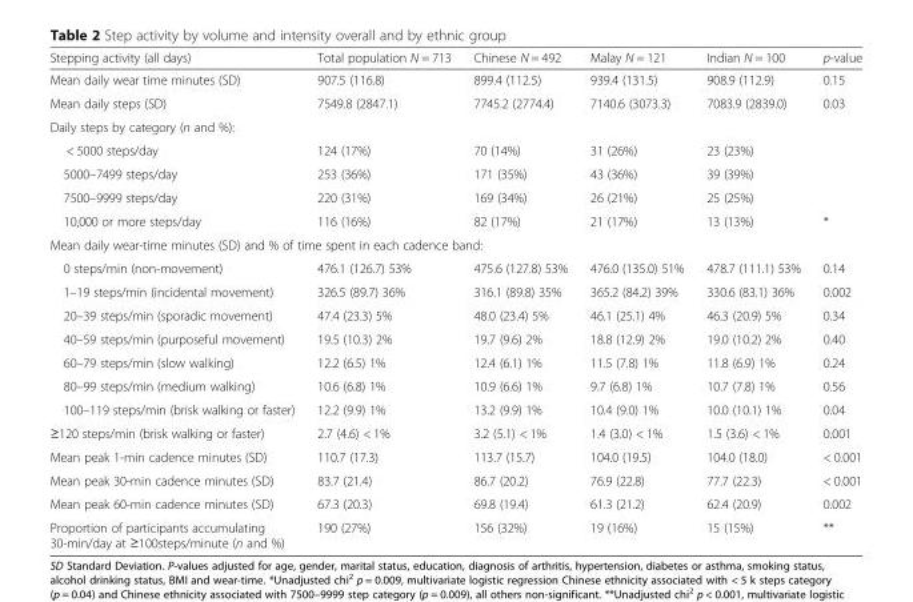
<table><thead><tr><td>Stepping activity (all days)</td><td>Total population N = 713</td><td>Chinese N = 492</td><td>Malay N = 121</td><td>Indian N = 100</td><td>p-value</td></tr></thead><tbody><tr><td>Mean daily wear time minutes (SD)</td><td>907.5 (116.8)</td><td>899.4 (112.5)</td><td>939.4 (131.5)</td><td>908.9 (112.9)</td><td>0.15</td></tr><tr><td>Mean daily steps (SD)</td><td>7549.8 (2847.1)</td><td>7745.2 (2774.4)</td><td>7140.6 (3073.3)</td><td>7083.9 (2839.0)</td><td>0.03</td></tr><tr><td colspan="6">Daily steps by category (n and %):</td></tr><tr><td>&lt; 5000 steps/day</td><td>124 (17%)</td><td>70 (14%)</td><td>31 (26%)</td><td>23 (23%)</td><td></td></tr><tr><td>5000–7499 steps/day</td><td>253 (36%)</td><td>171 (35%)</td><td>43 (36%)</td><td>39 (39%)</td><td></td></tr><tr><td>7500–9999 steps/day</td><td>220 (31%)</td><td>169 (34%)</td><td>26 (21%)</td><td>25 (25%)</td><td></td></tr><tr><td>10,000 or more steps/day</td><td>116 (16%)</td><td>82 (17%)</td><td>21 (17%)</td><td>13 (13%)</td><td>*</td></tr><tr><td colspan="6">Mean daily wear-time minutes (SD) and % of time spent in each cadence band:</td></tr><tr><td>0 steps/min (non-movement)</td><td>476.1 (126.7) 53%</td><td>475.6 (127.8) 53%</td><td>476.0 (135.0) 51%</td><td>478.7 (111.1) 53%</td><td>0.14</td></tr><tr><td>1–19 steps/min (incidental movement)</td><td>326.5 (89.7) 36%</td><td>316.1 (89.8) 35%</td><td>365.2 (84.2) 39%</td><td>330.6 (83.1) 36%</td><td>0.002</td></tr><tr><td>20–39 steps/min (sporadic movement)</td><td>47.4 (23.3) 5%</td><td>48.0 (23.4) 5%</td><td>46.1 (25.1) 4%</td><td>46.3 (20.9) 5%</td><td>0.34</td></tr><tr><td>40–59 steps/min (purposeful movement)</td><td>19.5 (10.3) 2%</td><td>19.7 (9.6) 2%</td><td>18.8 (12.9) 2%</td><td>19.0 (10.2) 2%</td><td>0.40</td></tr><tr><td>60–79 steps/min (slow walking)</td><td>12.2 (6.5) 1%</td><td>12.4 (6.1) 1%</td><td>11.5 (7.8) 1%</td><td>11.8 (6.9) 1%</td><td>0.24</td></tr><tr><td>80–99 steps/min (medium walking)</td><td>10.6 (6.8) 1%</td><td>10.9 (6.6) 1%</td><td>9.7 (6.8) 1%</td><td>10.7 (7.8) 1%</td><td>0.56</td></tr><tr><td>100–119 steps/min (brisk walking or faster)</td><td>12.2 (9.9) 1%</td><td>13.2 (9.9) 1%</td><td>10.4 (9.0) 1%</td><td>10.0 (10.1) 1%</td><td>0.04</td></tr><tr><td>≥120 steps/min (brisk walking or faster)</td><td>2.7 (4.6) &lt; 1%</td><td>3.2 (5.1) &lt; 1%</td><td>1.4 (3.0) &lt; 1%</td><td>1.5 (3.6) &lt; 1%</td><td>0.001</td></tr><tr><td>Mean peak 1-min cadence minutes (SD)</td><td>110.7 (17.3)</td><td>113.7 (15.7)</td><td>104.0 (19.5)</td><td>104.0 (18.0)</td><td>&lt; 0.001</td></tr><tr><td>Mean peak 30-min cadence minutes (SD)</td><td>83.7 (21.4)</td><td>86.7 (20.2)</td><td>76.9 (22.8)</td><td>77.7 (22.3)</td><td>&lt; 0.001</td></tr><tr><td>Mean peak 60-min cadence minutes (SD)</td><td>67.3 (20.3)</td><td>69.8 (19.4)</td><td>61.3 (21.2)</td><td>62.4 (20.9)</td><td>0.002</td></tr><tr><td>Proportion of participants accumulating 30-min/day at ≥100steps/minute (n and %)</td><td>190 (27%)</td><td>156 (32%)</td><td>19 (16%)</td><td>15 (15%)</td><td>**</td></tr></tbody></table>